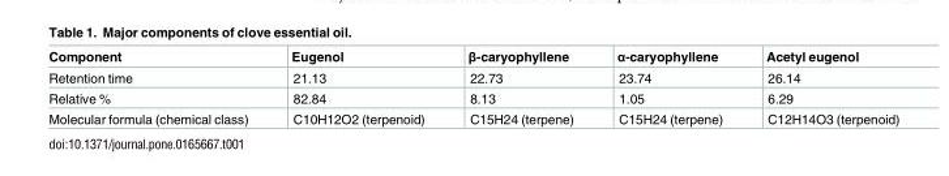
<table><thead><tr><td>Component</td><td>Eugenol</td><td>β-caryophyllene</td><td>α-caryophyllene</td><td>Acetyl eugenol</td></tr></thead><tbody><tr><td>Retention time</td><td>21.13</td><td>22.73</td><td>23.74</td><td>26.14</td></tr><tr><td>Relative %</td><td>82.84</td><td>8.13</td><td>1.05</td><td>6.29</td></tr><tr><td>Molecular formula (chemical class)</td><td>C10H12O2 (terpenoid)</td><td>C15H24 (terpene)</td><td>C15H24 (terpene)</td><td>C12H14O3 (terpenoid)</td></tr></tbody></table>